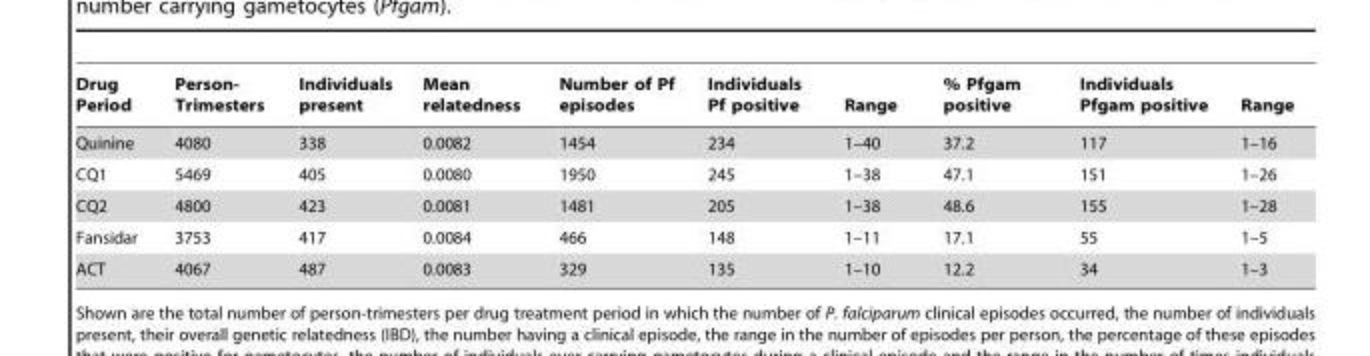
<table><thead><tr><td>Drug Period</td><td>Person- Trimesters</td><td>Individuals present</td><td>Mean relatedness</td><td>Number of Pf episodes</td><td>Individuals Pf positive</td><td>Range</td><td>% Pfgam positive</td><td>Individuals Pfgam positive</td><td>Range</td></tr></thead><tbody><tr><td>Quinine</td><td>4080</td><td>338</td><td>0.0082</td><td>1454</td><td>234</td><td>1–40</td><td>37.2</td><td>117</td><td>1–16</td></tr><tr><td>CQ1</td><td>5469</td><td>405</td><td>0.0080</td><td>1950</td><td>245</td><td>1–38</td><td>47.1</td><td>151</td><td>1–26</td></tr><tr><td>CQ2</td><td>4800</td><td>423</td><td>0.0081</td><td>1481</td><td>205</td><td>1–38</td><td>48.6</td><td>155</td><td>1–28</td></tr><tr><td>Fansidar</td><td>3753</td><td>417</td><td>0.0084</td><td>466</td><td>148</td><td>1–11</td><td>17.1</td><td>55</td><td>1–5</td></tr><tr><td>ACT</td><td>4067</td><td>487</td><td>0.0083</td><td>329</td><td>135</td><td>1–10</td><td>12.2</td><td>34</td><td>1–3</td></tr></tbody></table>